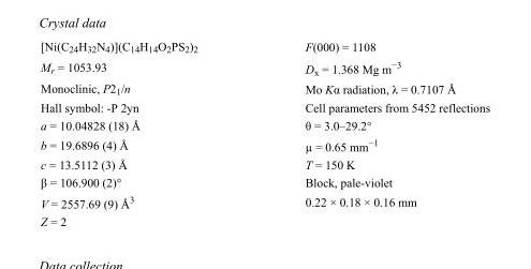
<table><tbody><tr><td>[Ni(C<sub>24</sub>H<sub>32</sub>N<sub>4</sub>)](C<sub>14</sub>H<sub>14</sub>O<sub>2</sub>PS<sub>2</sub>)<sub>2</sub></td><td>F(000) = 1108</td></tr><tr><td>M<sub>r</sub> = 1053.93</td><td>D<sub>x</sub> = 1.368 Mg m<sup>−3</sup></td></tr><tr><td>Monoclinic, P2<sub>1</sub>/n</td><td>Mo Kα radiation, λ = 0.7107 Å</td></tr><tr><td>Hall symbol: -P 2yn</td><td>Cell parameters from 5452 reflections</td></tr><tr><td>a = 10.04828 (18) Å</td><td>θ = 3.0–29.2°</td></tr><tr><td>b = 19.6896 (4) Å</td><td>µ = 0.65 mm<sup>−1</sup></td></tr><tr><td>c = 13.5112 (3) Å</td><td>T = 150 K</td></tr><tr><td>β = 106.900 (2)°</td><td>Block, pale-violet</td></tr><tr><td>V = 2557.69 (9) Å<sup>3</sup></td><td>0.22 × 0.18 × 0.16 mm</td></tr><tr><td>Z = 2</td><td></td></tr></tbody></table>